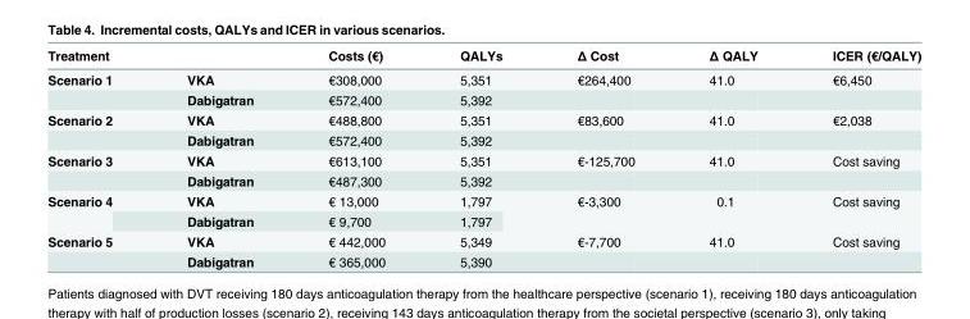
<table><thead><tr><td>Treatment</td><td></td><td>Costs (€)</td><td>QALYs</td><td>Δ Cost</td><td>Δ QALY</td><td>ICER (€/QALY)</td></tr></thead><tbody><tr><td rowspan="2">Scenario 1</td><td>VKA</td><td>€308,000</td><td>5,351</td><td>€264,400</td><td>41.0</td><td>€6,450</td></tr><tr><td>Dabigatran</td><td>€572,400</td><td>5,392</td><td></td><td></td><td></td></tr><tr><td rowspan="2">Scenario 2</td><td>VKA</td><td>€488,800</td><td>5,351</td><td>€83,600</td><td>41.0</td><td>€2,038</td></tr><tr><td>Dabigatran</td><td>€572,400</td><td>5,392</td><td></td><td></td><td></td></tr><tr><td rowspan="2">Scenario 3</td><td>VKA</td><td>€613,100</td><td>5,351</td><td>€-125,700</td><td>41.0</td><td>Cost saving</td></tr><tr><td>Dabigatran</td><td>€487,300</td><td>5,392</td><td></td><td></td><td></td></tr><tr><td rowspan="2">Scenario 4</td><td>VKA</td><td>€ 13,000</td><td>1,797</td><td rowspan="2">€-3,300</td><td rowspan="2">0.1</td><td rowspan="2">Cost saving</td></tr><tr><td>Dabigatran</td><td>€ 9,700</td><td>1,797</td></tr><tr><td rowspan="2">Scenario 5</td><td>VKA</td><td>€ 442,000</td><td>5,349</td><td>€-7,700</td><td>41.0</td><td>Cost saving</td></tr><tr><td>Dabigatran</td><td>€ 365,000</td><td>5,390</td><td></td><td></td><td></td></tr></tbody></table>